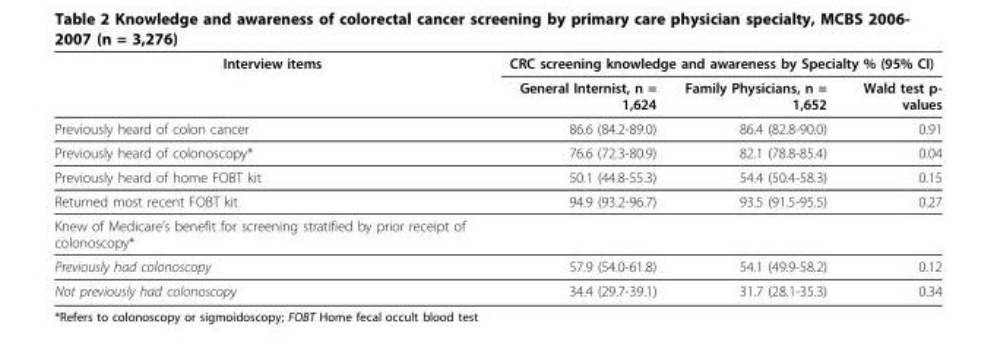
<table><thead><tr><td rowspan="2">Interview items</td><td colspan="3">CRC screening knowledge and awareness by Specialty % (95% CI)</td></tr><tr><td>General Internist, n = 1,624</td><td>Family Physicians, n = 1,652</td><td>Wald test p- values</td></tr></thead><tbody><tr><td>Previously heard of colon cancer</td><td>86.6 (84.2-89.0)</td><td>86.4 (82.8-90.0)</td><td>0.91</td></tr><tr><td>Previously heard of colonoscopy*</td><td>76.6 (72.3-80.9)</td><td>82.1 (78.8-85.4)</td><td>0.04</td></tr><tr><td>Previously heard of home FOBT kit</td><td>50.1 (44.8-55.3)</td><td>54.4 (50.4-58.3)</td><td>0.15</td></tr><tr><td>Returned most recent FOBT kit</td><td>94.9 (93.2-96.7)</td><td>93.5 (91.5-95.5)</td><td>0.27</td></tr><tr><td colspan="4">Knew of Medicare’s benefit for screening stratified by prior receipt of colonoscopy*</td></tr><tr><td>Previously had colonoscopy</td><td>57.9 (54.0-61.8)</td><td>54.1 (49.9-58.2)</td><td>0.12</td></tr><tr><td>Not previously had colonoscopy</td><td>34.4 (29.7-39.1)</td><td>31.7 (28.1-35.3)</td><td>0.34</td></tr></tbody></table>